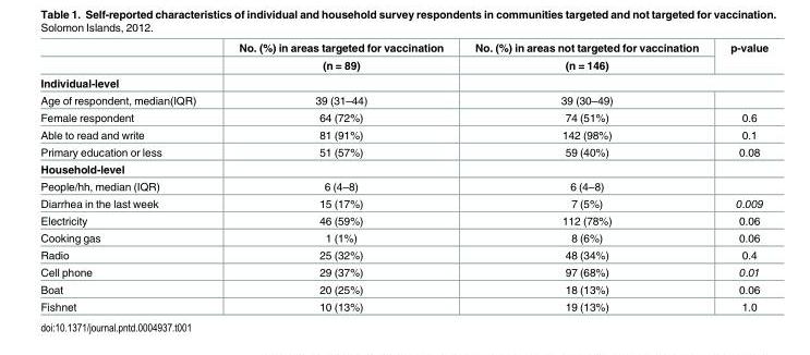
<table><thead><tr><td rowspan="2"></td><td rowspan="2">No. (%) in areas targeted for vaccination (n = 89)</td><td rowspan="2">No. (%) in areas not targeted for vaccination (n = 146)</td><td rowspan="2">p-value</td></tr><tr></tr></thead><tbody><tr><td colspan="4">Individual-level</td></tr><tr><td>Age of respondent, median(IQR)</td><td>39 (31–44)</td><td>39 (30–49)</td><td></td></tr><tr><td>Female respondent</td><td>64 (72%)</td><td>74 (51%)</td><td>0.6</td></tr><tr><td>Able to read and write</td><td>81 (91%)</td><td>142 (98%)</td><td>0.1</td></tr><tr><td>Primary education or less</td><td>51 (57%)</td><td>59 (40%)</td><td>0.08</td></tr><tr><td colspan="4">Household-level</td></tr><tr><td>People/hh, median (IQR)</td><td>6 (4–8)</td><td>6 (4–8)</td><td></td></tr><tr><td>Diarrhea in the last week</td><td>15 (17%)</td><td>7 (5%)</td><td>0.009</td></tr><tr><td>Electricity</td><td>46 (59%)</td><td>112 (78%)</td><td>0.06</td></tr><tr><td>Cooking gas</td><td>1 (1%)</td><td>8 (6%)</td><td>0.06</td></tr><tr><td>Radio</td><td>25 (32%)</td><td>48 (34%)</td><td>0.4</td></tr><tr><td>Cell phone</td><td>29 (37%)</td><td>97 (68%)</td><td>0.01</td></tr><tr><td>Boat</td><td>20 (25%)</td><td>18 (13%)</td><td>0.06</td></tr><tr><td>Fishnet</td><td>10 (13%)</td><td>19 (13%)</td><td>1.0</td></tr></tbody></table>